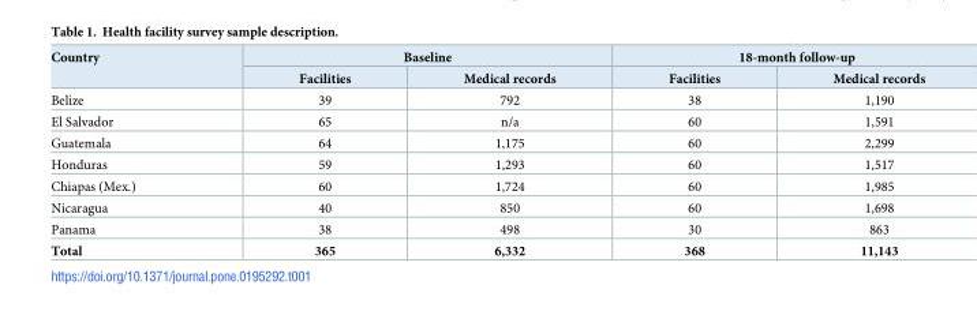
<table><thead><tr><td rowspan="2">Country</td><td colspan="2">Baseline</td><td colspan="2">18-month follow-up</td></tr><tr><td>Facilities</td><td>Medical records</td><td>Facilities</td><td>Medical records</td></tr></thead><tbody><tr><td>Belize</td><td>39</td><td>792</td><td>38</td><td>1,190</td></tr><tr><td>El Salvador</td><td>65</td><td>n/a</td><td>60</td><td>1,591</td></tr><tr><td>Guatemala</td><td>64</td><td>1,175</td><td>60</td><td>2,299</td></tr><tr><td>Honduras</td><td>59</td><td>1,293</td><td>60</td><td>1,517</td></tr><tr><td>Chiapas (Mex.)</td><td>60</td><td>1,724</td><td>60</td><td>1,985</td></tr><tr><td>Nicaragua</td><td>40</td><td>850</td><td>60</td><td>1,698</td></tr><tr><td>Panama</td><td>38</td><td>498</td><td>30</td><td>863</td></tr><tr><td>Total</td><td>365</td><td>6,332</td><td>368</td><td>11,143</td></tr></tbody></table>